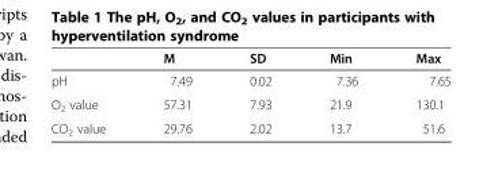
<table><thead><tr><td></td><td>M</td><td>SD</td><td>Min</td><td>Max</td></tr></thead><tbody><tr><td>pH</td><td>7.49</td><td>0.02</td><td>7.36</td><td>7.65</td></tr><tr><td>O<sub>2</sub> value</td><td>57.31</td><td>7.93</td><td>21.9</td><td>130.1</td></tr><tr><td>CO<sub>2</sub> value</td><td>29.76</td><td>2.02</td><td>13.7</td><td>51.6</td></tr></tbody></table>